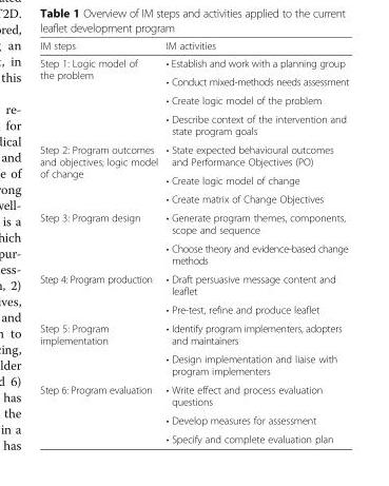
<table><thead><tr><td>IM steps</td><td>IM activities</td></tr></thead><tbody><tr><td rowspan="4">Step 1: Logic model of the problem</td><td>• Establish and work with a planning group</td></tr><tr><td>• Conduct mixed-methods needs assessment</td></tr><tr><td>• Create logic model of the problem</td></tr><tr><td>• Describe context of the intervention and state program goals</td></tr><tr><td rowspan="3">Step 2: Program outcomes and objectives; logic model of change</td><td>• State expected behavioural outcomes and Performance Objectives (PO)</td></tr><tr><td>• Create logic model of change</td></tr><tr><td>• Create matrix of Change Objectives</td></tr><tr><td rowspan="2">Step 3: Program design</td><td>• Generate program themes, components, scope and sequence</td></tr><tr><td>• Choose theory and evidence-based change methods</td></tr><tr><td rowspan="2">Step 4: Program production</td><td>• Draft persuasive message content and leaflet</td></tr><tr><td>• Pre-test, refine and produce leaflet</td></tr><tr><td rowspan="2">Step 5: Program implementation</td><td>• Identify program implementers, adopters and maintainers</td></tr><tr><td>• Design implementation and liaise with program implementers</td></tr><tr><td rowspan="3">Step 6: Program evaluation</td><td>• Write effect and process evaluation questions</td></tr><tr><td>• Develop measures for assessment</td></tr><tr><td>• Specify and complete evaluation plan</td></tr></tbody></table>